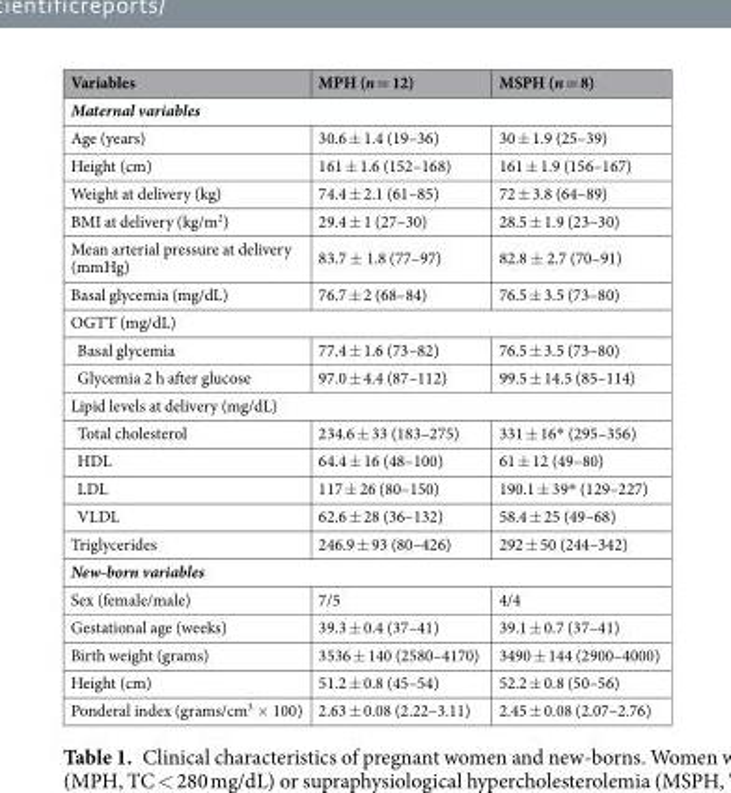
<table><thead><tr><td>Variables</td><td>MPH (n = 12)</td><td>MSPH (n = 8)</td></tr></thead><tbody><tr><td colspan="3">Maternal variables</td></tr><tr><td>Age (years)</td><td>30.6 ± 1.4 (19–36)</td><td>30 ± 1.9 (25–39)</td></tr><tr><td>Height (cm)</td><td>161 ± 1.6 (152–168)</td><td>161 ± 1.9 (156–167)</td></tr><tr><td>Weight at delivery (kg)</td><td>74.4 ± 2.1 (61–85)</td><td>72 ± 3.8 (64–89)</td></tr><tr><td>BMI at delivery (kg/m<sup>2</sup>)</td><td>29.4 ± 1 (27–30)</td><td>28.5 ± 1.9 (23–30)</td></tr><tr><td>Mean arterial pressure at delivery (mmHg)</td><td>83.7 ± 1.8 (77–97)</td><td>82.8 ± 2.7 (70–91)</td></tr><tr><td>Basal glycemia (mg/dL)</td><td>76.7 ± 2 (68–84)</td><td>76.5 ± 3.5 (73–80)</td></tr><tr><td colspan="3">OGTT (mg/dL)</td></tr><tr><td>Basal glycemia</td><td>77.4 ± 1.6 (73–82)</td><td>76.5 ± 3.5 (73–80)</td></tr><tr><td>Glycemia 2 h after glucose</td><td>97.0 ± 4.4 (87–112)</td><td>99.5 ± 14.5 (85–114)</td></tr><tr><td colspan="3">Lipid levels at delivery (mg/dL)</td></tr><tr><td>Total cholesterol</td><td>234.6 ± 33 (183–275)</td><td>331 ± 16* (295–356)</td></tr><tr><td>HDL</td><td>64.4 ± 16 (48–100)</td><td>61 ± 12 (49–80)</td></tr><tr><td>LDL</td><td>117 ± 26 (80–150)</td><td>190.1 ± 39* (129–227)</td></tr><tr><td>VLDL</td><td>62.6 ± 28 (36–132)</td><td>58.4 ± 25 (49–68)</td></tr><tr><td>Triglycerides</td><td>246.9 ± 93 (80–426)</td><td>292 ± 50 (244–342)</td></tr><tr><td colspan="3">New-born variables</td></tr><tr><td>Sex (female/male)</td><td>7/5</td><td>4/4</td></tr><tr><td>Gestational age (weeks)</td><td>39.3 ± 0.4 (37–41)</td><td>39.1 ± 0.7 (37–41)</td></tr><tr><td>Birth weight (grams)</td><td>3536 ± 140 (2580–4170)</td><td>3490 ± 144 (2900–4000)</td></tr><tr><td>Height (cm)</td><td>51.2 ± 0.8 (45–54)</td><td>52.2 ± 0.8 (50–56)</td></tr><tr><td>Ponderal index (grams/cm<sup>3</sup> × 100)</td><td>2.63 ± 0.08 (2.22–3.11)</td><td>2.45 ± 0.08 (2.07–2.76)</td></tr></tbody></table>